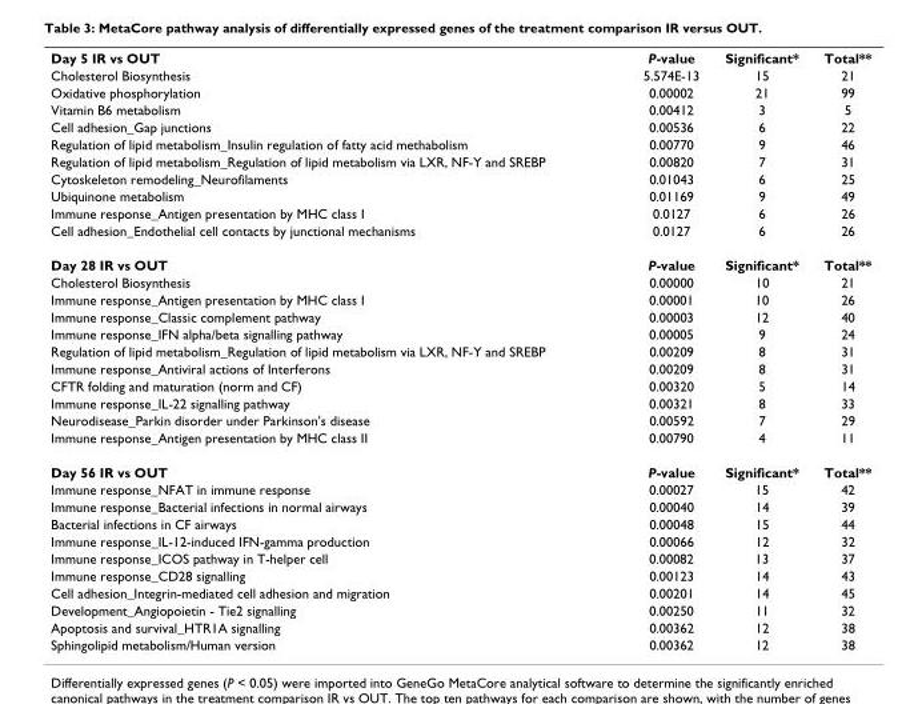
<table><tbody><tr><td>Day 5 IR vs OUT</td><td>P-value</td><td>Significant*</td><td>Total**</td></tr><tr><td>Cholesterol Biosynthesis</td><td>5.574E-13</td><td>15</td><td>21</td></tr><tr><td>Oxidative phosphorylation</td><td>0.00002</td><td>21</td><td>99</td></tr><tr><td>Vitamin B6 metabolism</td><td>0.00412</td><td>3</td><td>5</td></tr><tr><td>Cell adhesion_Gap junctions</td><td>0.00536</td><td>6</td><td>22</td></tr><tr><td>Regulation of lipid metabolism_Insulin regulation of fatty acid methabolism</td><td>0.00770</td><td>9</td><td>46</td></tr><tr><td>Regulation of lipid metabolism_Regulation of lipid metabolism via LXR, NF-Y and SREBP</td><td>0.00820</td><td>7</td><td>31</td></tr><tr><td>Cytoskeleton remodeling_Neurofilaments</td><td>0.01043</td><td>6</td><td>25</td></tr><tr><td>Ubiquinone metabolism</td><td>0.01169</td><td>9</td><td>49</td></tr><tr><td>Immune response_Antigen presentation by MHC class I</td><td>0.0127</td><td>6</td><td>26</td></tr><tr><td>Cell adhesion_Endothelial cell contacts by junctional mechanisms</td><td>0.0127</td><td>6</td><td>26</td></tr><tr><td>Day 28 IR vs OUT</td><td>P-value</td><td>Significant*</td><td>Total**</td></tr><tr><td>Cholesterol Biosynthesis</td><td>0.00000</td><td>10</td><td>21</td></tr><tr><td>Immune response_Antigen presentation by MHC class I</td><td>0.00001</td><td>10</td><td>26</td></tr><tr><td>Immune response_Classic complement pathway</td><td>0.00003</td><td>12</td><td>40</td></tr><tr><td>Immune response_IFN alpha/beta signalling pathway</td><td>0.00005</td><td>9</td><td>24</td></tr><tr><td>Regulation of lipid metabolism_Regulation of lipid metabolism via LXR, NF-Y and SREBP</td><td>0.00209</td><td>8</td><td>31</td></tr><tr><td>Immune response_Antiviral actions of Interferons</td><td>0.00209</td><td>8</td><td>31</td></tr><tr><td>CFTR folding and maturation (norm and CF)</td><td>0.00320</td><td>5</td><td>14</td></tr><tr><td>Immune response_IL-22 signalling pathway</td><td>0.00321</td><td>8</td><td>33</td></tr><tr><td>Neurodisease_Parkin disorder under Parkinson&#x27;s disease</td><td>0.00592</td><td>7</td><td>29</td></tr><tr><td>Immune response_Antigen presentation by MHC class II</td><td>0.00790</td><td>4</td><td>11</td></tr><tr><td>Day 56 IR vs OUT</td><td>P-value</td><td>Significant*</td><td>Total**</td></tr><tr><td>Immune response_NFAT in immune response</td><td>0.00027</td><td>15</td><td>42</td></tr><tr><td>Immune response_Bacterial infections in normal airways</td><td>0.00040</td><td>14</td><td>39</td></tr><tr><td>Bacterial infections in CF airways</td><td>0.00048</td><td>15</td><td>44</td></tr><tr><td>Immune response_IL-12-induced IFN-gamma production</td><td>0.00066</td><td>12</td><td>32</td></tr><tr><td>Immune response_ICOS pathway in T-helper cell</td><td>0.00082</td><td>13</td><td>37</td></tr><tr><td>Immune response_CD28 signalling</td><td>0.00123</td><td>14</td><td>43</td></tr><tr><td>Cell adhesion_Integrin-mediated cell adhesion and migration</td><td>0.00201</td><td>14</td><td>45</td></tr><tr><td>Development_Angiopoietin - Tie2 signalling</td><td>0.00250</td><td>11</td><td>32</td></tr><tr><td>Apoptosis and survival_HTR1A signalling</td><td>0.00362</td><td>12</td><td>38</td></tr><tr><td>Sphingolipid metabolism/Human version</td><td>0.00362</td><td>12</td><td>38</td></tr></tbody></table>